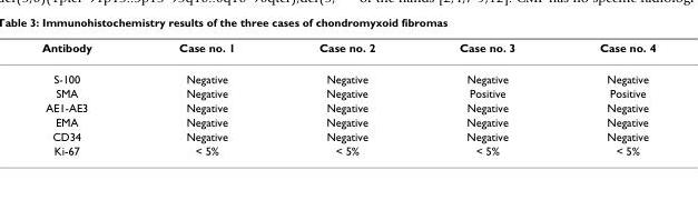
<table><thead><tr><td>Antibody</td><td>Case no. 1</td><td>Case no. 2</td><td>Case no. 3</td><td>Case no. 4</td></tr></thead><tbody><tr><td>S-100</td><td>Negative</td><td>Negative</td><td>Negative</td><td>Negative</td></tr><tr><td>SMA</td><td>Negative</td><td>Negative</td><td>Positive</td><td>Positive</td></tr><tr><td>AE1-AE3</td><td>Negative</td><td>Negative</td><td>Negative</td><td>Negative</td></tr><tr><td>EMA</td><td>Negative</td><td>Negative</td><td>Negative</td><td>Negative</td></tr><tr><td>CD34</td><td>Negative</td><td>Negative</td><td>Negative</td><td>Negative</td></tr><tr><td>Ki-67</td><td>&lt; 5%</td><td>&lt; 5%</td><td>&lt; 5%</td><td>&lt; 5%</td></tr></tbody></table>